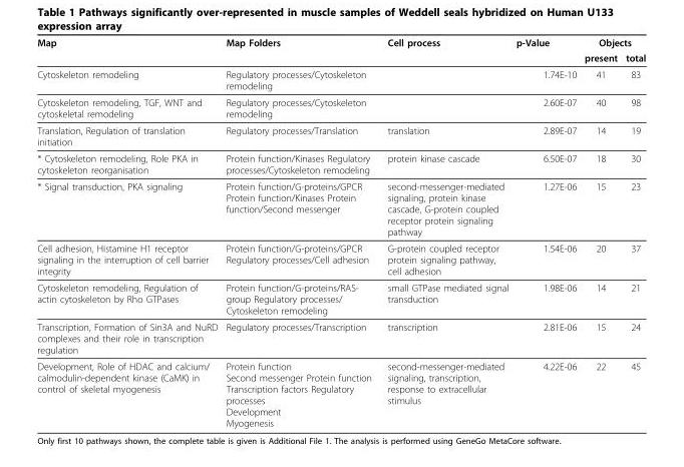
<table><thead><tr><td rowspan="2">Map</td><td rowspan="2">Map Folders</td><td rowspan="2">Cell process</td><td rowspan="2">p-Value</td><td colspan="2">Objects</td></tr><tr><td>present</td><td>total</td></tr></thead><tbody><tr><td>Cytoskeleton remodeling</td><td>Regulatory processes/Cytoskeleton remodeling</td><td></td><td>1.74E-10</td><td>41</td><td>83</td></tr><tr><td>Cytoskeleton remodeling, TGF, WNT and cytoskeletal remodeling</td><td>Regulatory processes/Cytoskeleton remodeling</td><td></td><td>2.60E-07</td><td>40</td><td>98</td></tr><tr><td>Translation, Regulation of translation initiation</td><td>Regulatory processes/Translation</td><td>translation</td><td>2.89E-07</td><td>14</td><td>19</td></tr><tr><td>* Cytoskeleton remodeling, Role PKA in cytoskeleton reorganisation</td><td>Protein function/Kinases Regulatory processes/Cytoskeleton remodeling</td><td>protein kinase cascade</td><td>6.50E-07</td><td>18</td><td>30</td></tr><tr><td>* Signal transduction, PKA signaling</td><td>Protein function/G-proteins/GPCR Protein function/Kinases Protein function/Second messenger</td><td>second-messenger-mediated signaling, protein kinase cascade, G-protein coupled receptor protein signaling pathway</td><td>1.27E-06</td><td>15</td><td>23</td></tr><tr><td>Cell adhesion, Histamine H1 receptor signaling in the interruption of cell barrier integrity</td><td>Protein function/G-proteins/GPCR Regulatory processes/Cell adhesion</td><td>G-protein coupled receptor protein signaling pathway, cell adhesion</td><td>1.54E-06</td><td>20</td><td>37</td></tr><tr><td>Cytoskeleton remodeling, Regulation of actin cytoskeleton by Rho GTPases</td><td>Protein function/G-proteins/RAS- group Regulatory processes/ Cytoskeleton remodeling</td><td>small GTPase mediated signal transduction</td><td>1.98E-06</td><td>14</td><td>21</td></tr><tr><td>Transcription, Formation of Sin3A and NuRD complexes and their role in transcription regulation</td><td>Regulatory processes/Transcription</td><td>transcription</td><td>2.81E-06</td><td>15</td><td>24</td></tr><tr><td>Development, Role of HDAC and calcium/ calmodulin-dependent kinase (CaMK) in control of skeletal myogenesis</td><td>Protein function Second messenger Protein function Transcription factors Regulatory processes Development Myogenesis</td><td>second-messenger-mediated signaling, transcription, response to extracellular stimulus</td><td>4.22E-06</td><td>22</td><td>45</td></tr></tbody></table>